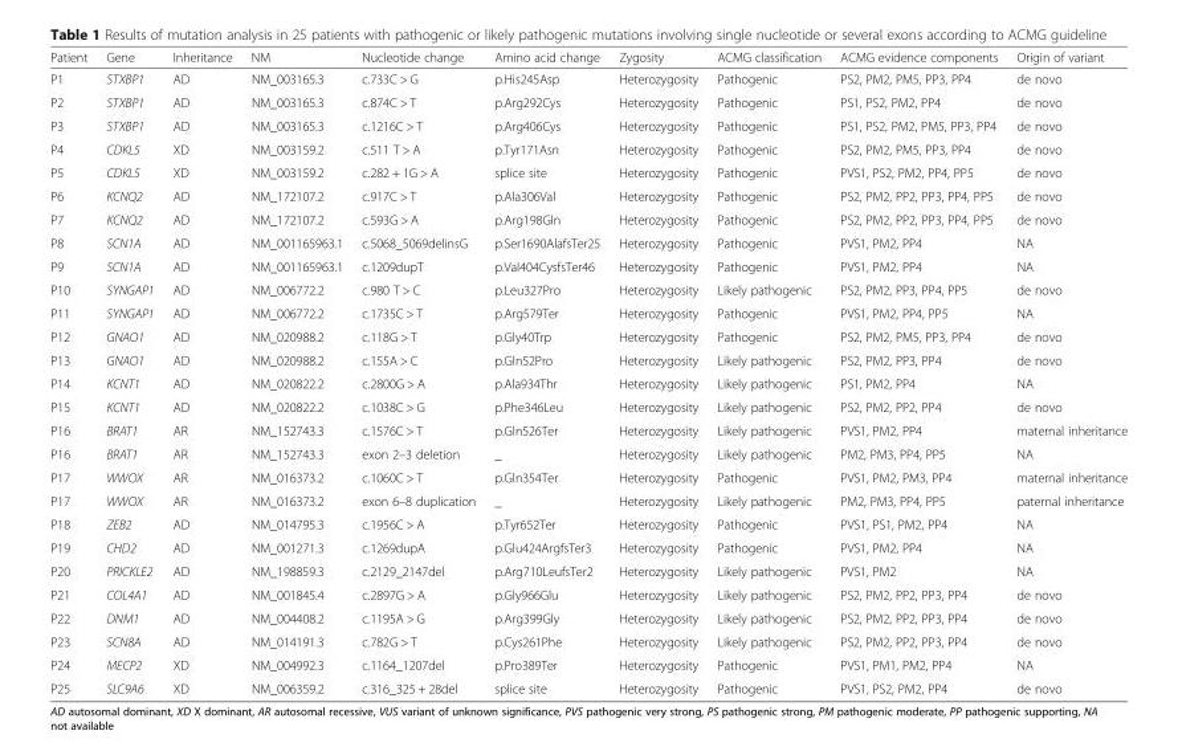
<table><thead><tr><td>Patient</td><td>Gene</td><td>Inheritance</td><td>NM</td><td>Nucleotide change</td><td>Amino acid change</td><td>Zygosity</td><td>ACMG classification</td><td>ACMG evidence components</td><td>Origin of variant</td></tr></thead><tbody><tr><td>P1</td><td>STXBP1</td><td>AD</td><td>NM_003165.3</td><td>c.733C &gt; G</td><td>p.His245Asp</td><td>Heterozygosity</td><td>Pathogenic</td><td>PS2, PM2, PM5, PP3, PP4</td><td>de novo</td></tr><tr><td>P2</td><td>STXBP1</td><td>AD</td><td>NM_003165.3</td><td>c.874C &gt; T</td><td>p.Arg292Cys</td><td>Heterozygosity</td><td>Pathogenic</td><td>PS1, PS2, PM2, PP4</td><td>de novo</td></tr><tr><td>P3</td><td>STXBP1</td><td>AD</td><td>NM_003165.3</td><td>c.1216C &gt; T</td><td>p.Arg406Cys</td><td>Heterozygosity</td><td>Pathogenic</td><td>PS1, PS2, PM2, PM5, PP3, PP4</td><td>de novo</td></tr><tr><td>P4</td><td>CDKL5</td><td>XD</td><td>NM_003159.2</td><td>c.511 T &gt; A</td><td>p.Tyr171Asn</td><td>Heterozygosity</td><td>Pathogenic</td><td>PS2, PM2, PM5, PP3, PP4</td><td>de novo</td></tr><tr><td>P5</td><td>CDKL5</td><td>XD</td><td>NM_003159.2</td><td>c.282 + 1G &gt; A</td><td>splice site</td><td>Heterozygosity</td><td>Pathogenic</td><td>PVS1, PS2, PM2, PP4, PP5</td><td>de novo</td></tr><tr><td>P6</td><td>KCNQ2</td><td>AD</td><td>NM_172107.2</td><td>c.917C &gt; T</td><td>p.Ala306Val</td><td>Heterozygosity</td><td>Pathogenic</td><td>PS2, PM2, PP2, PP3, PP4, PP5</td><td>de novo</td></tr><tr><td>P7</td><td>KCNQ2</td><td>AD</td><td>NM_172107.2</td><td>c.593G &gt; A</td><td>p.Arg198Gln</td><td>Heterozygosity</td><td>Pathogenic</td><td>PS2, PM2, PP2, PP3, PP4, PP5</td><td>de novo</td></tr><tr><td>P8</td><td>SCN1A</td><td>AD</td><td>NM_001165963.1</td><td>c.5068_5069delinsG</td><td>p.Ser1690AlafsTer25</td><td>Heterozygosity</td><td>Pathogenic</td><td>PVS1, PM2, PP4</td><td>NA</td></tr><tr><td>P9</td><td>SCN1A</td><td>AD</td><td>NM_001165963.1</td><td>c.1209dupT</td><td>p.Val404CysfsTer46</td><td>Heterozygosity</td><td>Pathogenic</td><td>PVS1, PM2, PP4</td><td>NA</td></tr><tr><td>P10</td><td>SYNGAP1</td><td>AD</td><td>NM_006772.2</td><td>c.980 T &gt; C</td><td>p.Leu327Pro</td><td>Heterozygosity</td><td>Likely pathogenic</td><td>PS2, PM2, PP3, PP4, PP5</td><td>de novo</td></tr><tr><td>P11</td><td>SYNGAP1</td><td>AD</td><td>NM_006772.2</td><td>c.1735C &gt; T</td><td>p.Arg579Ter</td><td>Heterozygosity</td><td>Pathogenic</td><td>PVS1, PM2, PP4, PP5</td><td>NA</td></tr><tr><td>P12</td><td>GNAO1</td><td>AD</td><td>NM_020988.2</td><td>c.118G &gt; T</td><td>p.Gly40Trp</td><td>Heterozygosity</td><td>Pathogenic</td><td>PS2, PM2, PM5, PP3, PP4</td><td>de novo</td></tr><tr><td>P13</td><td>GNAO1</td><td>AD</td><td>NM_020988.2</td><td>c.155A &gt; C</td><td>p.Gln52Pro</td><td>Heterozygosity</td><td>Likely pathogenic</td><td>PS2, PM2, PP3, PP4</td><td>de novo</td></tr><tr><td>P14</td><td>KCNT1</td><td>AD</td><td>NM_020822.2</td><td>c.2800G &gt; A</td><td>p.Ala934Thr</td><td>Heterozygosity</td><td>Likely pathogenic</td><td>PS1, PM2, PP4</td><td>NA</td></tr><tr><td>P15</td><td>KCNT1</td><td>AD</td><td>NM_020822.2</td><td>c.1038C &gt; G</td><td>p.Phe346Leu</td><td>Heterozygosity</td><td>Likely pathogenic</td><td>PS2, PM2, PP2, PP4</td><td>de novo</td></tr><tr><td>P16</td><td>BRAT1</td><td>AR</td><td>NM_152743.3</td><td>c.1576C &gt; T</td><td>p.Gln526Ter</td><td>Heterozygosity</td><td>Likely pathogenic</td><td>PVS1, PM2, PP4</td><td>maternal inheritance</td></tr><tr><td>P16</td><td>BRAT1</td><td>AR</td><td>NM_152743.3</td><td>exon 2–3 deletion</td><td>_</td><td>Heterozygosity</td><td>Likely pathogenic</td><td>PM2, PM3, PP4, PP5</td><td>NA</td></tr><tr><td>P17</td><td>WWOX</td><td>AR</td><td>NM_016373.2</td><td>c.1060C &gt; T</td><td>p.Gln354Ter</td><td>Heterozygosity</td><td>Pathogenic</td><td>PVS1, PM2, PM3, PP4</td><td>maternal inheritance</td></tr><tr><td>P17</td><td>WWOX</td><td>AR</td><td>NM_016373.2</td><td>exon 6–8 duplication</td><td>_</td><td>Heterozygosity</td><td>Likely pathogenic</td><td>PM2, PM3, PP4, PP5</td><td>paternal inheritance</td></tr><tr><td>P18</td><td>ZEB2</td><td>AD</td><td>NM_014795.3</td><td>c.1956C &gt; A</td><td>p.Tyr652Ter</td><td>Heterozygosity</td><td>Pathogenic</td><td>PVS1, PS1, PM2, PP4</td><td>NA</td></tr><tr><td>P19</td><td>CHD2</td><td>AD</td><td>NM_001271.3</td><td>c.1269dupA</td><td>p.Glu424ArgfsTer3</td><td>Heterozygosity</td><td>Pathogenic</td><td>PVS1, PM2, PP4</td><td>NA</td></tr><tr><td>P20</td><td>PRICKLE2</td><td>AD</td><td>NM_198859.3</td><td>c.2129_2147del</td><td>p.Arg710LeufsTer2</td><td>Heterozygosity</td><td>Likely pathogenic</td><td>PVS1, PM2</td><td>NA</td></tr><tr><td>P21</td><td>COL4A1</td><td>AD</td><td>NM_001845.4</td><td>c.2897G &gt; A</td><td>p.Gly966Glu</td><td>Heterozygosity</td><td>Likely pathogenic</td><td>PS2, PM2, PP2, PP3, PP4</td><td>de novo</td></tr><tr><td>P22</td><td>DNM1</td><td>AD</td><td>NM_004408.2</td><td>c.1195A &gt; G</td><td>p.Arg399Gly</td><td>Heterozygosity</td><td>Likely pathogenic</td><td>PS2, PM2, PP2, PP3, PP4</td><td>de novo</td></tr><tr><td>P23</td><td>SCN8A</td><td>AD</td><td>NM_014191.3</td><td>c.782G &gt; T</td><td>p.Cys261Phe</td><td>Heterozygosity</td><td>Likely pathogenic</td><td>PS2, PM2, PP2, PP3, PP4</td><td>de novo</td></tr><tr><td>P24</td><td>MECP2</td><td>XD</td><td>NM_004992.3</td><td>c.1164_1207del</td><td>p.Pro389Ter</td><td>Heterozygosity</td><td>Pathogenic</td><td>PVS1, PM1, PM2, PP4</td><td>NA</td></tr><tr><td>P25</td><td>SLC9A6</td><td>XD</td><td>NM_006359.2</td><td>c.316_325 + 28del</td><td>splice site</td><td>Heterozygosity</td><td>Pathogenic</td><td>PVS1, PS2, PM2, PP4</td><td>de novo</td></tr></tbody></table>